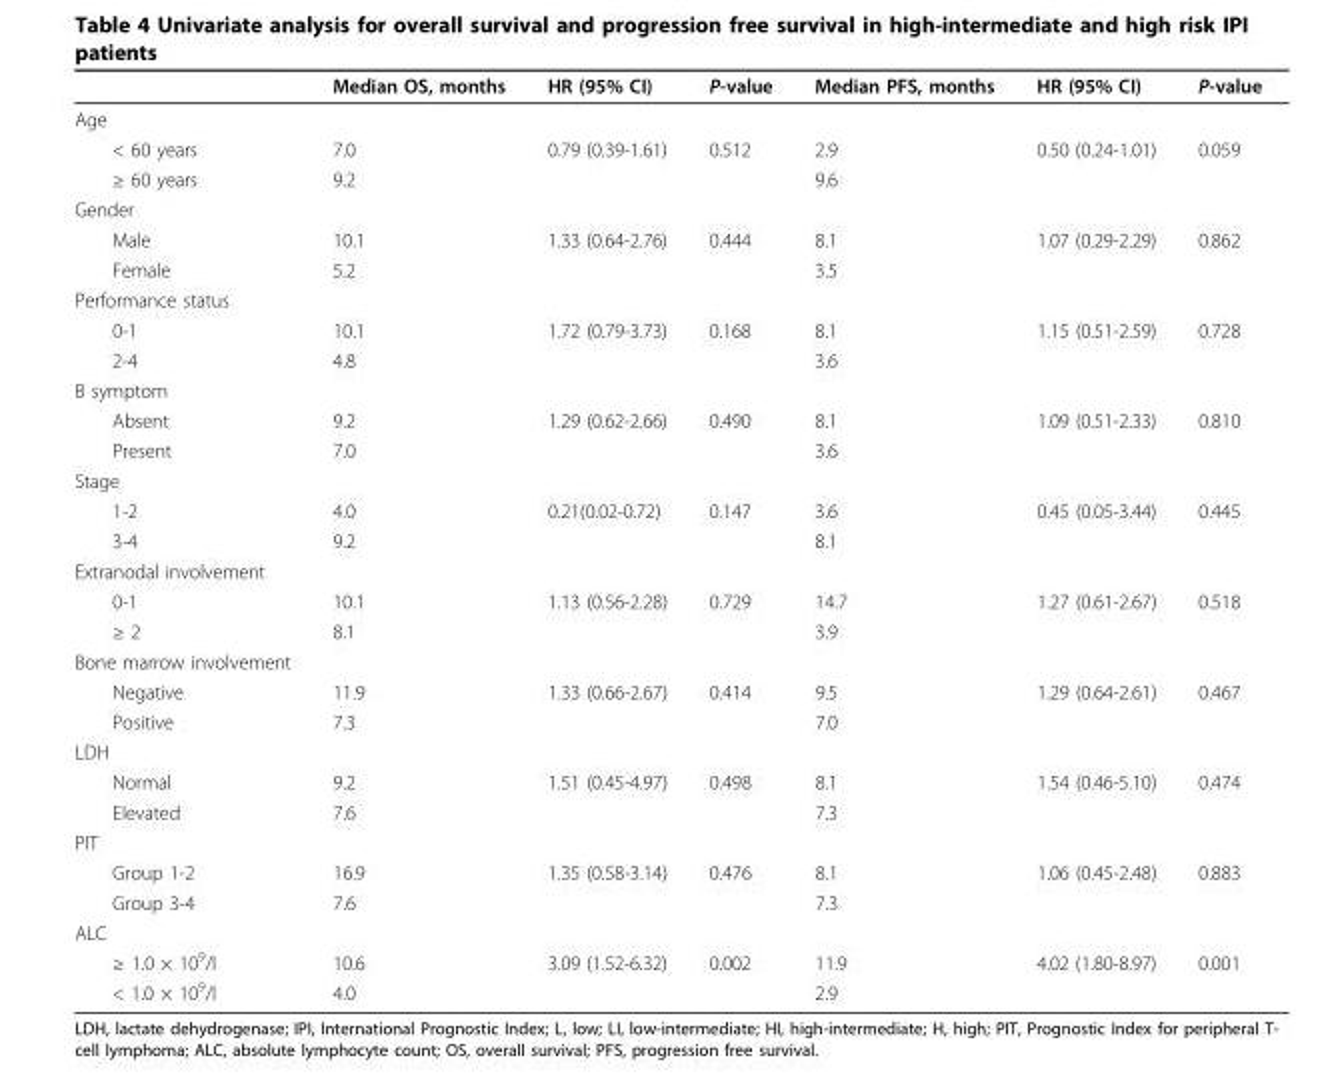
<table><thead><tr><td></td><td>Median OS, months</td><td>HR (95% CI)</td><td>P-value</td><td>Median PFS, months</td><td>HR (95% CI)</td><td>P-value</td></tr></thead><tbody><tr><td colspan="7">Age</td></tr><tr><td>&lt; 60 years</td><td>7.0</td><td>0.79 (0.39-1.61)</td><td>0.512</td><td>2.9</td><td>0.50 (0.24-1.01)</td><td>0.059</td></tr><tr><td>≥ 60 years</td><td>9.2</td><td></td><td></td><td>9.6</td><td></td><td></td></tr><tr><td colspan="7">Gender</td></tr><tr><td>Male</td><td>10.1</td><td>1.33 (0.64-2.76)</td><td>0.444</td><td>8.1</td><td>1.07 (0.29-2.29)</td><td>0.862</td></tr><tr><td>Female</td><td>5.2</td><td></td><td></td><td>3.5</td><td></td><td></td></tr><tr><td colspan="7">Performance status</td></tr><tr><td>0-1</td><td>10.1</td><td>1.72 (0.79-3.73)</td><td>0.168</td><td>8.1</td><td>1.15 (0.51-2.59)</td><td>0.728</td></tr><tr><td>2-4</td><td>4.8</td><td></td><td></td><td>3.6</td><td></td><td></td></tr><tr><td colspan="7">B symptom</td></tr><tr><td>Absent</td><td>9.2</td><td>1.29 (0.62-2.66)</td><td>0.490</td><td>8.1</td><td>1.09 (0.51-2.33)</td><td>0.810</td></tr><tr><td>Present</td><td>7.0</td><td></td><td></td><td>3.6</td><td></td><td></td></tr><tr><td colspan="7">Stage</td></tr><tr><td>1-2</td><td>4.0</td><td>0.21(0.02-0.72)</td><td>0.147</td><td>3.6</td><td>0.45 (0.05-3.44)</td><td>0.445</td></tr><tr><td>3-4</td><td>9.2</td><td></td><td></td><td>8.1</td><td></td><td></td></tr><tr><td colspan="7">Extranodal involvement</td></tr><tr><td>0-1</td><td>10.1</td><td>1.13 (0.56-2.28)</td><td>0.729</td><td>14.7</td><td>1.27 (0.61-2.67)</td><td>0.518</td></tr><tr><td>≥ 2</td><td>8.1</td><td></td><td></td><td>3.9</td><td></td><td></td></tr><tr><td colspan="7">Bone marrow involvement</td></tr><tr><td>Negative</td><td>11.9</td><td>1.33 (0.66-2.67)</td><td>0.414</td><td>9.5</td><td>1.29 (0.64-2.61)</td><td>0.467</td></tr><tr><td>Positive</td><td>7.3</td><td></td><td></td><td>7.0</td><td></td><td></td></tr><tr><td colspan="7">LDH</td></tr><tr><td>Normal</td><td>9.2</td><td>1.51 (0.45-4.97)</td><td>0.498</td><td>8.1</td><td>1.54 (0.46-5.10)</td><td>0.474</td></tr><tr><td>Elevated</td><td>7.6</td><td></td><td></td><td>7.3</td><td></td><td></td></tr><tr><td colspan="7">PIT</td></tr><tr><td>Group 1-2</td><td>16.9</td><td>1.35 (0.58-3.14)</td><td>0.476</td><td>8.1</td><td>1.06 (0.45-2.48)</td><td>0.883</td></tr><tr><td>Group 3-4</td><td>7.6</td><td></td><td></td><td>7.3</td><td></td><td></td></tr><tr><td colspan="7">ALC</td></tr><tr><td>≥ 1.0 × 10<sup>9</sup>/l</td><td>10.6</td><td>3.09 (1.52-6.32)</td><td>0.002</td><td>11.9</td><td>4.02 (1.80-8.97)</td><td>0.001</td></tr><tr><td>&lt; 1.0 × 10<sup>9</sup>/l</td><td>4.0</td><td></td><td></td><td>2.9</td><td></td><td></td></tr></tbody></table>